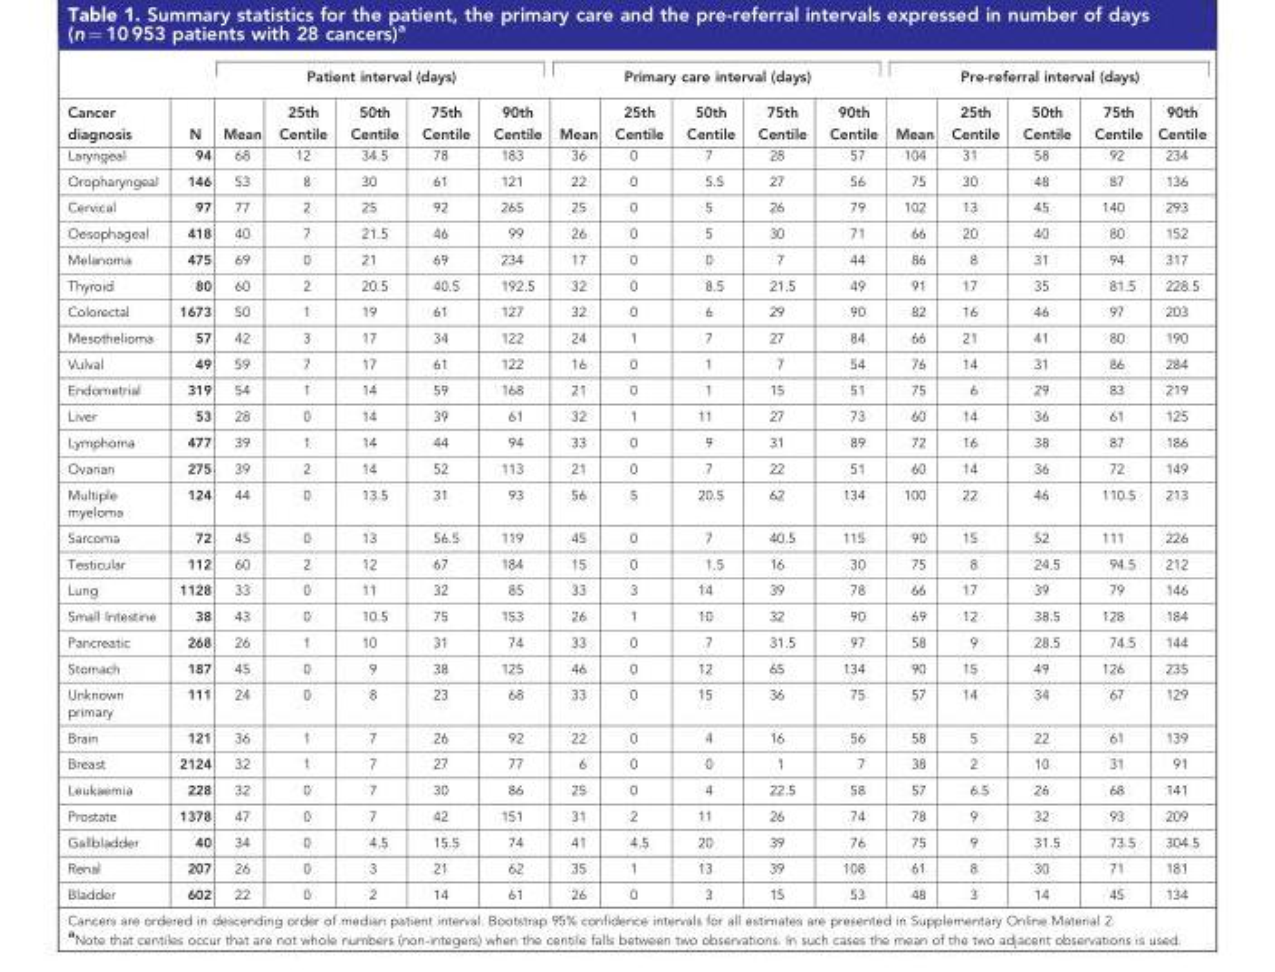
<table><thead><tr><td rowspan="2">Cancer diagnosis</td><td rowspan="2">N</td><td colspan="5">Patient interval (days)</td><td colspan="5">Primary care interval (days)</td><td colspan="5">Pre-referral interval (days)</td></tr><tr><td>Mean</td><td>25th Centile</td><td>50th Centile</td><td>75th Centile</td><td>90th Centile</td><td>Mean</td><td>25th Centile</td><td>50th Centile</td><td>75th Centile</td><td>90th Centile</td><td>Mean</td><td>25th Centile</td><td>50th Centile</td><td>75th Centile</td><td>90th Centile</td></tr></thead><tbody><tr><td>Laryngeal</td><td>94</td><td>68</td><td>12</td><td>34.5</td><td>78</td><td>183</td><td>36</td><td>0</td><td>7</td><td>28</td><td>57</td><td>104</td><td>31</td><td>58</td><td>92</td><td>234</td></tr><tr><td>Oropharyngeal</td><td>146</td><td>53</td><td>8</td><td>30</td><td>61</td><td>121</td><td>22</td><td>0</td><td>5.5</td><td>27</td><td>56</td><td>75</td><td>30</td><td>48</td><td>87</td><td>136</td></tr><tr><td>Cervical</td><td>97</td><td>77</td><td>2</td><td>25</td><td>92</td><td>265</td><td>25</td><td>0</td><td>5</td><td>26</td><td>79</td><td>102</td><td>13</td><td>45</td><td>140</td><td>293</td></tr><tr><td>Oesophageal</td><td>418</td><td>40</td><td>7</td><td>21.5</td><td>46</td><td>99</td><td>26</td><td>0</td><td>5</td><td>30</td><td>71</td><td>66</td><td>20</td><td>40</td><td>80</td><td>152</td></tr><tr><td>Melanoma</td><td>475</td><td>69</td><td>0</td><td>21</td><td>69</td><td>234</td><td>17</td><td>0</td><td>0</td><td>7</td><td>44</td><td>86</td><td>8</td><td>31</td><td>94</td><td>317</td></tr><tr><td>Thyroid</td><td>80</td><td>60</td><td>2</td><td>20.5</td><td>40.5</td><td>192.5</td><td>32</td><td>0</td><td>8.5</td><td>21.5</td><td>49</td><td>91</td><td>17</td><td>35</td><td>81.5</td><td>228.5</td></tr><tr><td>Colorectal</td><td>1673</td><td>50</td><td>1</td><td>19</td><td>61</td><td>127</td><td>32</td><td>0</td><td>6</td><td>29</td><td>90</td><td>82</td><td>16</td><td>46</td><td>97</td><td>203</td></tr><tr><td>Mesothelioma</td><td>57</td><td>42</td><td>3</td><td>17</td><td>34</td><td>122</td><td>24</td><td>1</td><td>7</td><td>27</td><td>84</td><td>66</td><td>21</td><td>41</td><td>80</td><td>190</td></tr><tr><td>Vulval</td><td>49</td><td>59</td><td>7</td><td>17</td><td>61</td><td>122</td><td>16</td><td>0</td><td>1</td><td>7</td><td>54</td><td>76</td><td>14</td><td>31</td><td>86</td><td>284</td></tr><tr><td>Endometrial</td><td>319</td><td>54</td><td>1</td><td>14</td><td>59</td><td>168</td><td>21</td><td>0</td><td>1</td><td>15</td><td>51</td><td>75</td><td>6</td><td>29</td><td>83</td><td>219</td></tr><tr><td>Liver</td><td>53</td><td>28</td><td>0</td><td>14</td><td>39</td><td>61</td><td>32</td><td>1</td><td>11</td><td>27</td><td>73</td><td>60</td><td>14</td><td>36</td><td>61</td><td>125</td></tr><tr><td>Lymphoma</td><td>477</td><td>39</td><td>1</td><td>14</td><td>44</td><td>94</td><td>33</td><td>0</td><td>9</td><td>31</td><td>89</td><td>72</td><td>16</td><td>38</td><td>87</td><td>186</td></tr><tr><td>Ovarian</td><td>275</td><td>39</td><td>2</td><td>14</td><td>52</td><td>113</td><td>21</td><td>0</td><td>7</td><td>22</td><td>51</td><td>60</td><td>14</td><td>36</td><td>72</td><td>149</td></tr><tr><td>Multiple myeloma</td><td>124</td><td>44</td><td>0</td><td>13.5</td><td>31</td><td>93</td><td>56</td><td>5</td><td>20.5</td><td>62</td><td>134</td><td>100</td><td>22</td><td>46</td><td>110.5</td><td>213</td></tr><tr><td>Sarcoma</td><td>72</td><td>45</td><td>0</td><td>13</td><td>56.5</td><td>119</td><td>45</td><td>0</td><td>7</td><td>40.5</td><td>115</td><td>90</td><td>15</td><td>52</td><td>111</td><td>226</td></tr><tr><td>Testicular</td><td>112</td><td>60</td><td>2</td><td>12</td><td>67</td><td>184</td><td>15</td><td>0</td><td>1.5</td><td>16</td><td>30</td><td>75</td><td>8</td><td>24.5</td><td>94.5</td><td>212</td></tr><tr><td>Lung</td><td>1128</td><td>33</td><td>0</td><td>11</td><td>32</td><td>85</td><td>33</td><td>3</td><td>14</td><td>39</td><td>78</td><td>66</td><td>17</td><td>39</td><td>79</td><td>146</td></tr><tr><td>Small Intestine</td><td>38</td><td>43</td><td>0</td><td>10.5</td><td>75</td><td>153</td><td>26</td><td>1</td><td>10</td><td>32</td><td>90</td><td>69</td><td>12</td><td>38.5</td><td>128</td><td>184</td></tr><tr><td>Pancreatic</td><td>268</td><td>26</td><td>1</td><td>10</td><td>31</td><td>74</td><td>33</td><td>0</td><td>7</td><td>31.5</td><td>97</td><td>58</td><td>9</td><td>28.5</td><td>74.5</td><td>144</td></tr><tr><td>Stomach</td><td>187</td><td>45</td><td>0</td><td>9</td><td>38</td><td>125</td><td>46</td><td>0</td><td>12</td><td>65</td><td>134</td><td>90</td><td>15</td><td>49</td><td>126</td><td>235</td></tr><tr><td>Unknown primary</td><td>111</td><td>24</td><td>0</td><td>8</td><td>23</td><td>68</td><td>33</td><td>0</td><td>15</td><td>36</td><td>75</td><td>57</td><td>14</td><td>34</td><td>67</td><td>129</td></tr><tr><td>Brain</td><td>121</td><td>36</td><td>1</td><td>7</td><td>26</td><td>92</td><td>22</td><td>0</td><td>4</td><td>16</td><td>56</td><td>58</td><td>5</td><td>22</td><td>61</td><td>139</td></tr><tr><td>Breast</td><td>2124</td><td>32</td><td>1</td><td>7</td><td>27</td><td>77</td><td>6</td><td>0</td><td>0</td><td>1</td><td>7</td><td>38</td><td>2</td><td>10</td><td>31</td><td>91</td></tr><tr><td>Leukaemia</td><td>228</td><td>32</td><td>0</td><td>7</td><td>30</td><td>86</td><td>25</td><td>0</td><td>4</td><td>22.5</td><td>58</td><td>57</td><td>6.5</td><td>26</td><td>68</td><td>141</td></tr><tr><td>Prostate</td><td>1378</td><td>47</td><td>0</td><td>7</td><td>42</td><td>151</td><td>31</td><td>2</td><td>11</td><td>26</td><td>74</td><td>78</td><td>9</td><td>32</td><td>93</td><td>209</td></tr><tr><td>Gallbladder</td><td>40</td><td>34</td><td>0</td><td>4.5</td><td>15.5</td><td>74</td><td>41</td><td>4.5</td><td>20</td><td>39</td><td>76</td><td>75</td><td>9</td><td>31.5</td><td>73.5</td><td>304.5</td></tr><tr><td>Renal</td><td>207</td><td>26</td><td>0</td><td>3</td><td>21</td><td>62</td><td>35</td><td>1</td><td>13</td><td>39</td><td>108</td><td>61</td><td>8</td><td>30</td><td>71</td><td>181</td></tr><tr><td>Bladder</td><td>602</td><td>22</td><td>0</td><td>2</td><td>14</td><td>61</td><td>26</td><td>0</td><td>3</td><td>15</td><td>53</td><td>48</td><td>3</td><td>14</td><td>45</td><td>134</td></tr></tbody></table>